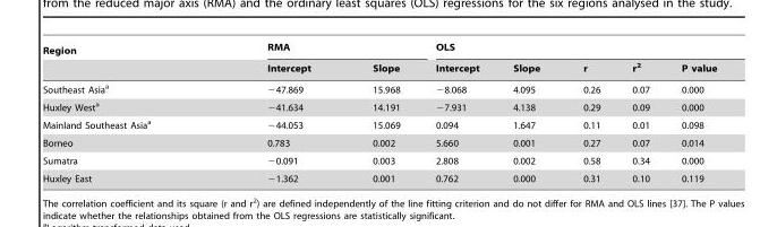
<table><thead><tr><td rowspan="2">Region</td><td colspan="2">RMA</td><td colspan="5">OLS</td></tr><tr><td>Intercept</td><td>Slope</td><td>Intercept</td><td>Slope</td><td>r</td><td>r<sup>2</sup></td><td>P value</td></tr></thead><tbody><tr><td>Southeast Asia<sup>a</sup></td><td>−47.869</td><td>15.968</td><td>−8.068</td><td>4.095</td><td>0.26</td><td>0.07</td><td>0.000</td></tr><tr><td>Huxley West<sup>a</sup></td><td>−41.634</td><td>14.191</td><td>−7.931</td><td>4.138</td><td>0.29</td><td>0.09</td><td>0.000</td></tr><tr><td>Mainland Southeast Asia<sup>a</sup></td><td>−44.053</td><td>15.069</td><td>0.094</td><td>1.647</td><td>0.11</td><td>0.01</td><td>0.098</td></tr><tr><td>Borneo</td><td>0.783</td><td>0.002</td><td>5.660</td><td>0.001</td><td>0.27</td><td>0.07</td><td>0.014</td></tr><tr><td>Sumatra</td><td>−0.091</td><td>0.003</td><td>2.808</td><td>0.002</td><td>0.58</td><td>0.34</td><td>0.000</td></tr><tr><td>Huxley East</td><td>−1.362</td><td>0.001</td><td>0.762</td><td>0.000</td><td>0.31</td><td>0.10</td><td>0.119</td></tr></tbody></table>